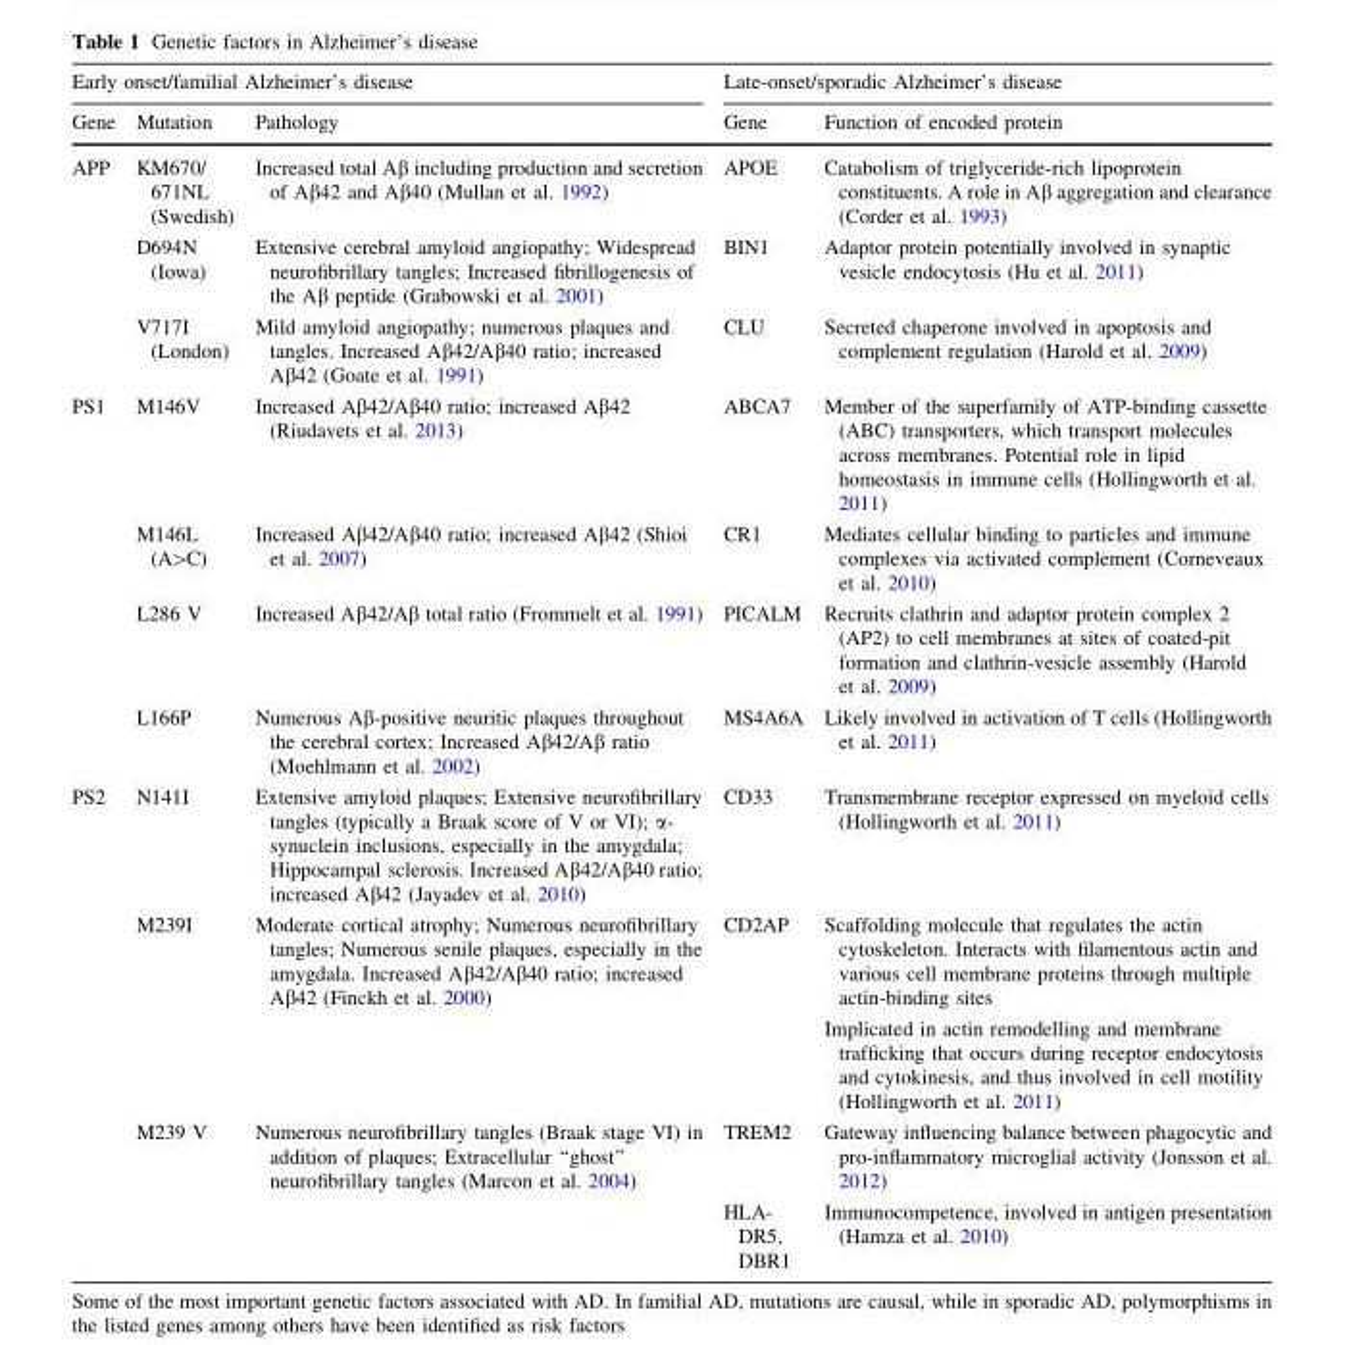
<table><thead><tr><td colspan="3">Early onset/familial Alzheimer’s disease</td><td colspan="2">Late-onset/sporadic Alzheimer’s disease</td></tr><tr><td>Gene</td><td>Mutation</td><td>Pathology</td><td>Gene</td><td>Function of encoded protein</td></tr></thead><tbody><tr><td rowspan="3">APP</td><td>KM670/ 671NL (Swedish)</td><td>Increased total Aβ including production and secretion of Aβ42 and Aβ40 (Mullan et al. 1992)</td><td>APOE</td><td>Catabolism of triglyceride-rich lipoprotein constituents. A role in Aβ aggregation and clearance (Corder et al. 1993)</td></tr><tr><td>D694N (Iowa)</td><td>Extensive cerebral amyloid angiopathy; Widespread neurofibrillary tangles; Increased fibrillogenesis of the Aβ peptide (Grabowski et al. 2001)</td><td>BIN1</td><td>Adaptor protein potentially involved in synaptic vesicle endocytosis (Hu et al. 2011)</td></tr><tr><td>V717I (London)</td><td>Mild amyloid angiopathy; numerous plaques and tangles. Increased Aβ42/Aβ40 ratio; increased Aβ42 (Goate et al. 1991)</td><td>CLU</td><td>Secreted chaperone involved in apoptosis and complement regulation (Harold et al. 2009)</td></tr><tr><td rowspan="4">PS1</td><td>M146V</td><td>Increased Aβ42/Aβ40 ratio; increased Aβ42 (Riudavets et al. 2013)</td><td>ABCA7</td><td>Member of the superfamily of ATP-binding cassette (ABC) transporters, which transport molecules across membranes. Potential role in lipid homeostasis in immune cells (Hollingworth et al. 2011)</td></tr><tr><td>M146L (A&gt;C)</td><td>Increased Aβ42/Aβ40 ratio; increased Aβ42 (Shioi et al. 2007)</td><td>CR1</td><td>Mediates cellular binding to particles and immune complexes via activated complement (Corneveaux et al. 2010)</td></tr><tr><td>L286 V</td><td>Increased Aβ42/Aβ total ratio (Frommelt et al. 1991)</td><td>PICALM</td><td>Recruits clathrin and adaptor protein complex 2 (AP2) to cell membranes at sites of coated-pit formation and clathrin-vesicle assembly (Harold et al. 2009)</td></tr><tr><td>L166P</td><td>Numerous Aβ-positive neuritic plaques throughout the cerebral cortex; Increased Aβ42/Aβ ratio (Moehlmann et al. 2002)</td><td>MS4A6A</td><td>Likely involved in activation of T cells (Hollingworth et al. 2011)</td></tr><tr><td rowspan="4">PS2</td><td>N141I</td><td>Extensive amyloid plaques; Extensive neurofibrillary tangles (typically a Braak score of V or VI); α- synuclein inclusions, especially in the amygdala; Hippocampal sclerosis. Increased Aβ42/Aβ40 ratio; increased Aβ42 (Jayadev et al. 2010)</td><td>CD33</td><td>Transmembrane receptor expressed on myeloid cells (Hollingworth et al. 2011)</td></tr><tr><td>M239I</td><td>Moderate cortical atrophy; Numerous neurofibrillary tangles; Numerous senile plaques, especially in the amygdala. Increased Aβ42/Aβ40 ratio; increased Aβ42 (Finckh et al. 2000)</td><td>CD2AP</td><td>Scaffolding molecule that regulates the actin cytoskeleton. Interacts with filamentous actin and various cell membrane proteins through multiple actin-binding sites Implicated in actin remodelling and membrane trafficking that occurs during receptor endocytosis and cytokinesis, and thus involved in cell motility (Hollingworth et al. 2011)</td></tr><tr><td>M239 V</td><td>Numerous neurofibrillary tangles (Braak stage VI) in addition of plaques; Extracellular ‘‘ghost’’ neurofibrillary tangles (Marcon et al. 2004)</td><td>TREM2</td><td>Gateway influencing balance between phagocytic and pro-inflammatory microglial activity (Jonsson et al. 2012)</td></tr><tr><td></td><td></td><td>HLA- DR5, DBR1</td><td>Immunocompetence, involved in antigen presentation (Hamza et al. 2010)</td></tr></tbody></table>